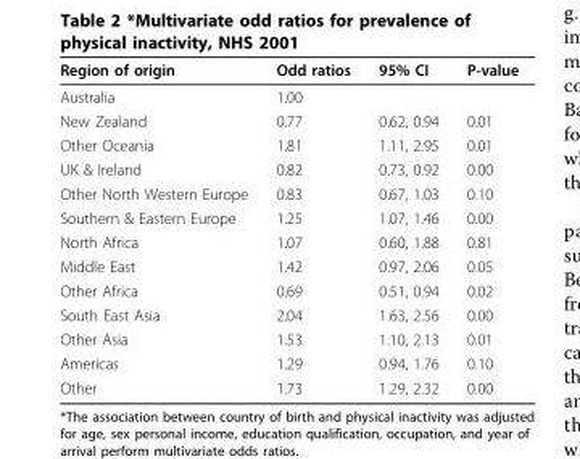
<table><thead><tr><td>Region of origin</td><td>Odd ratios</td><td>95% CI</td><td>P-value</td></tr></thead><tbody><tr><td>Australia</td><td>1.00</td><td></td><td></td></tr><tr><td>New Zealand</td><td>0.77</td><td>0.62, 0.94</td><td>0.01</td></tr><tr><td>Other Oceania</td><td>1.81</td><td>1.11, 2.95</td><td>0.01</td></tr><tr><td>UK &amp; Ireland</td><td>0.82</td><td>0.73, 0.92</td><td>0.00</td></tr><tr><td>Other North Western Europe</td><td>0.83</td><td>0.67, 1.03</td><td>0.10</td></tr><tr><td>Southern &amp; Eastern Europe</td><td>1.25</td><td>1.07, 1.46</td><td>0.00</td></tr><tr><td>North Africa</td><td>1.07</td><td>0.60, 1.88</td><td>0.81</td></tr><tr><td>Middle East</td><td>1.42</td><td>0.97, 2.06</td><td>0.05</td></tr><tr><td>Other Africa</td><td>0.69</td><td>0.51, 0.94</td><td>0.02</td></tr><tr><td>South East Asia</td><td>2.04</td><td>1.63, 2.56</td><td>0.00</td></tr><tr><td>Other Asia</td><td>1.53</td><td>1.10, 2.13</td><td>0.01</td></tr><tr><td>Americas</td><td>1.29</td><td>0.94, 1.76</td><td>0.10</td></tr><tr><td>Other</td><td>1.73</td><td>1.29, 2.32</td><td>0.00</td></tr></tbody></table>